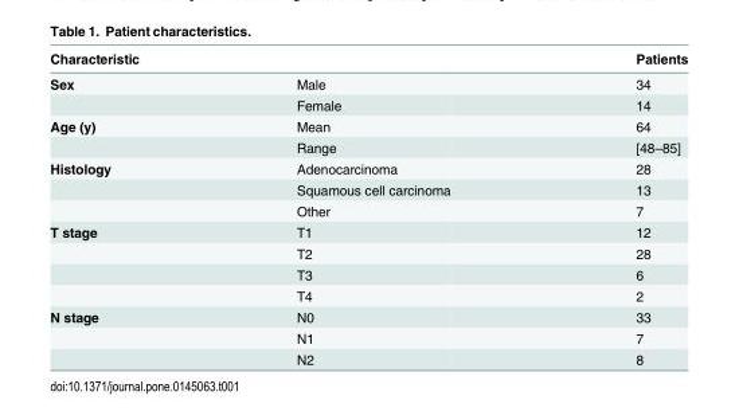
<table><thead><tr><td colspan="2">Characteristic</td><td rowspan="2">Patients 34</td></tr><tr><td>Sex</td><td>Male</td></tr></thead><tbody><tr><td></td><td>Female</td><td>14</td></tr><tr><td rowspan="2">Age (y)</td><td>Mean</td><td>64</td></tr><tr><td>Range</td><td>[48–85]</td></tr><tr><td rowspan="3">Histology</td><td>Adenocarcinoma</td><td>28</td></tr><tr><td>Squamous cell carcinoma</td><td>13</td></tr><tr><td>Other</td><td>7</td></tr><tr><td rowspan="4">T stage</td><td>T1</td><td>12</td></tr><tr><td>T2</td><td>28</td></tr><tr><td>T3</td><td>6</td></tr><tr><td>T4</td><td>2</td></tr><tr><td rowspan="3">N stage</td><td>N0</td><td>33</td></tr><tr><td>N1</td><td>7</td></tr><tr><td>N2</td><td>8</td></tr></tbody></table>